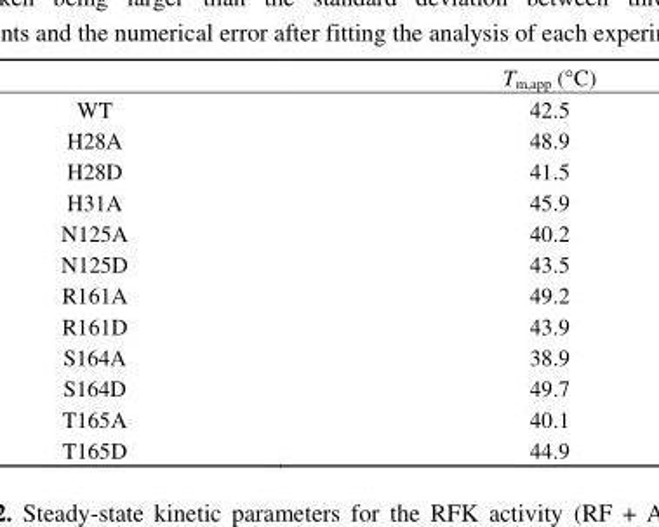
<table><thead><tr><td></td><td>T<sub>m,app</sub> (°C)</td></tr></thead><tbody><tr><td>WT</td><td>42.5</td></tr><tr><td>H28A</td><td>48.9</td></tr><tr><td>H28D</td><td>41.5</td></tr><tr><td>H31A</td><td>45.9</td></tr><tr><td>N125A</td><td>40.2</td></tr><tr><td>N125D</td><td>43.5</td></tr><tr><td>R161A</td><td>49.2</td></tr><tr><td>R161D</td><td>43.9</td></tr><tr><td>S164A</td><td>38.9</td></tr><tr><td>S164D</td><td>49.7</td></tr><tr><td>T165A</td><td>40.1</td></tr><tr><td>T165D</td><td>44.9</td></tr></tbody></table>